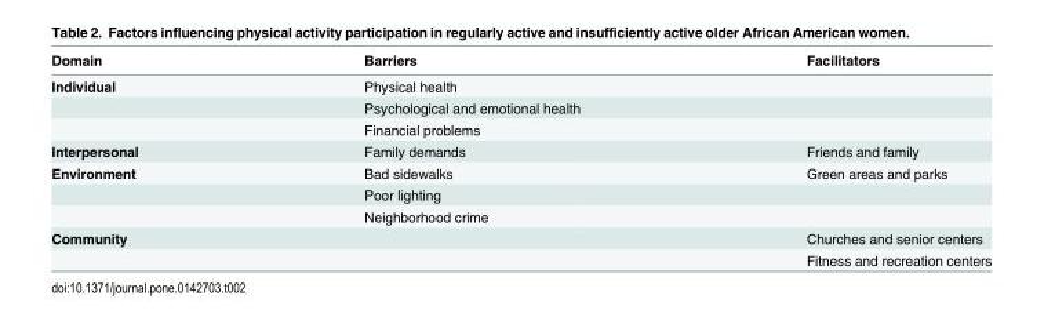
<table><thead><tr><td>Domain</td><td>Barriers</td><td>Facilitators</td></tr></thead><tbody><tr><td rowspan="3">Individual</td><td>Physical health</td><td></td></tr><tr><td>Psychological and emotional health</td><td></td></tr><tr><td>Financial problems</td><td></td></tr><tr><td>Interpersonal</td><td>Family demands</td><td>Friends and family</td></tr><tr><td rowspan="3">Environment</td><td>Bad sidewalks</td><td>Green areas and parks</td></tr><tr><td>Poor lighting</td><td></td></tr><tr><td>Neighborhood crime</td><td></td></tr><tr><td rowspan="2">Community</td><td></td><td>Churches and senior centers</td></tr><tr><td></td><td>Fitness and recreation centers</td></tr></tbody></table>